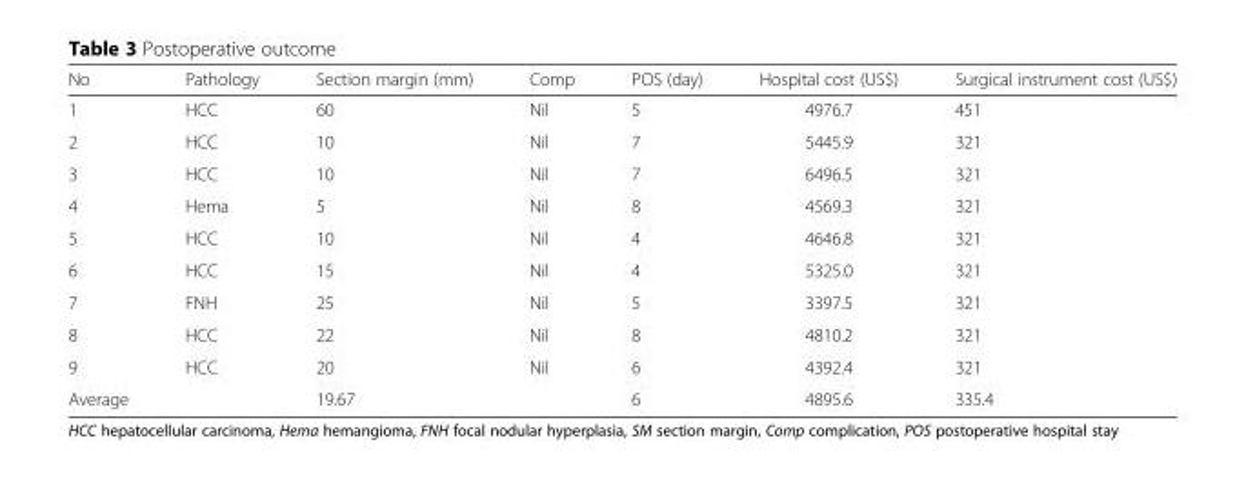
<table><thead><tr><td>No</td><td>Pathology</td><td>Section margin (mm)</td><td>Comp</td><td>POS (day)</td><td>Hospital cost (US$)</td><td>Surgical instrument cost (US$)</td></tr></thead><tbody><tr><td>1</td><td>HCC</td><td>60</td><td>Nil</td><td>5</td><td>4976.7</td><td>451</td></tr><tr><td>2</td><td>HCC</td><td>10</td><td>Nil</td><td>7</td><td>5445.9</td><td>321</td></tr><tr><td>3</td><td>HCC</td><td>10</td><td>Nil</td><td>7</td><td>6496.5</td><td>321</td></tr><tr><td>4</td><td>Hema</td><td>5</td><td>Nil</td><td>8</td><td>4569.3</td><td>321</td></tr><tr><td>5</td><td>HCC</td><td>10</td><td>Nil</td><td>4</td><td>4646.8</td><td>321</td></tr><tr><td>6</td><td>HCC</td><td>15</td><td>Nil</td><td>4</td><td>5325.0</td><td>321</td></tr><tr><td>7</td><td>FNH</td><td>25</td><td>Nil</td><td>5</td><td>3397.5</td><td>321</td></tr><tr><td>8</td><td>HCC</td><td>22</td><td>Nil</td><td>8</td><td>4810.2</td><td>321</td></tr><tr><td>9</td><td>HCC</td><td>20</td><td>Nil</td><td>6</td><td>4392.4</td><td>321</td></tr><tr><td>Average</td><td></td><td>19.67</td><td></td><td>6</td><td>4895.6</td><td>335.4</td></tr></tbody></table>